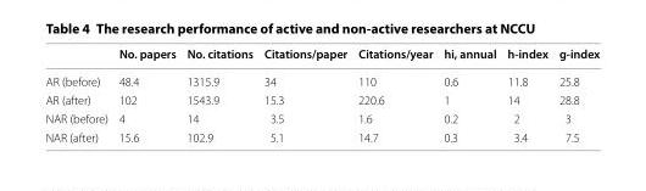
<table><thead><tr><td></td><td>No. papers</td><td>No. citations</td><td>Citations/paper</td><td>Citations/year</td><td>hi, annual</td><td>h-index</td><td>g-index</td></tr></thead><tbody><tr><td>AR (before)</td><td>48.4</td><td>1315.9</td><td>34</td><td>110</td><td>0.6</td><td>11.8</td><td>25.8</td></tr><tr><td>AR (after)</td><td>102</td><td>1543.9</td><td>15.3</td><td>220.6</td><td>1</td><td>14</td><td>28.8</td></tr><tr><td>NAR (before)</td><td>4</td><td>14</td><td>3.5</td><td>1.6</td><td>0.2</td><td>2</td><td>3</td></tr><tr><td>NAR (after)</td><td>15.6</td><td>102.9</td><td>5.1</td><td>14.7</td><td>0.3</td><td>3.4</td><td>7.5</td></tr></tbody></table>